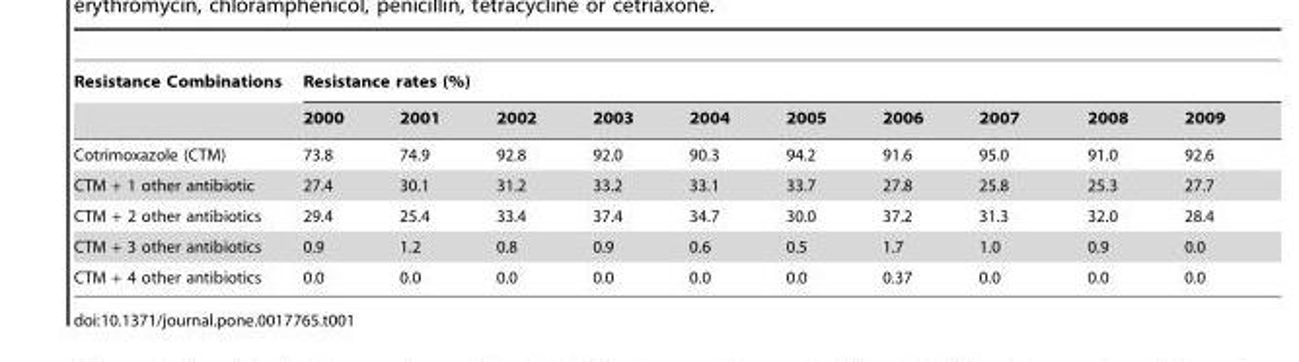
<table><thead><tr><td rowspan="2">Resistance Combinations</td><td colspan="10">Resistance rates (%)</td></tr><tr><td>2000</td><td>2001</td><td>2002</td><td>2003</td><td>2004</td><td>2005</td><td>2006</td><td>2007</td><td>2008</td><td>2009</td></tr></thead><tbody><tr><td>Cotrimoxazole (CTM)</td><td>73.8</td><td>74.9</td><td>92.8</td><td>92.0</td><td>90.3</td><td>94.2</td><td>91.6</td><td>95.0</td><td>91.0</td><td>92.6</td></tr><tr><td>CTM + 1 other antibiotic</td><td>27.4</td><td>30.1</td><td>31.2</td><td>33.2</td><td>33.1</td><td>33.7</td><td>27.8</td><td>25.8</td><td>25.3</td><td>27.7</td></tr><tr><td>CTM + 2 other antibiotics</td><td>29.4</td><td>25.4</td><td>33.4</td><td>37.4</td><td>34.7</td><td>30.0</td><td>37.2</td><td>31.3</td><td>32.0</td><td>28.4</td></tr><tr><td>CTM + 3 other antibiotics</td><td>0.9</td><td>1.2</td><td>0.8</td><td>0.9</td><td>0.6</td><td>0.5</td><td>1.7</td><td>1.0</td><td>0.9</td><td>0.0</td></tr><tr><td>CTM + 4 other antibiotics</td><td>0.0</td><td>0.0</td><td>0.0</td><td>0.0</td><td>0.0</td><td>0.0</td><td>0.37</td><td>0.0</td><td>0.0</td><td>0.0</td></tr></tbody></table>